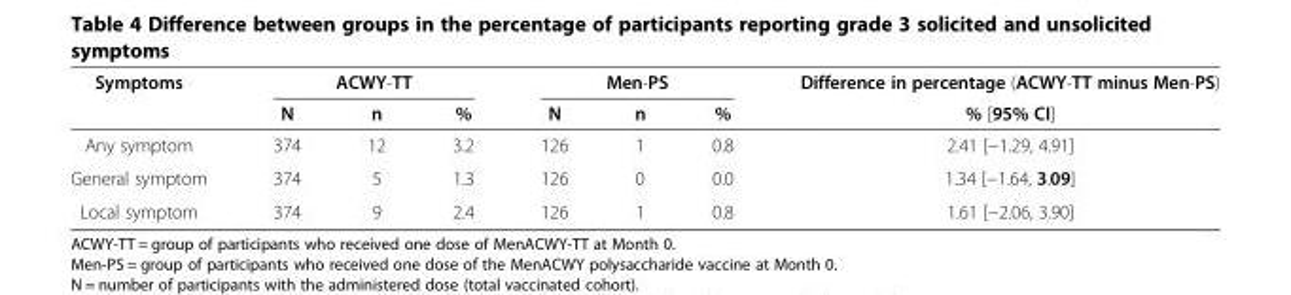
<table><thead><tr><td rowspan="2">Symptoms</td><td colspan="3">ACWY-TT</td><td colspan="3">Men-PS</td><td rowspan="2">Difference in percentage (ACWY-TT minus Men-PS) % [95% CI]</td></tr><tr><td>N</td><td>n</td><td>%</td><td>N</td><td>n</td><td>%</td></tr></thead><tbody><tr><td>Any symptom</td><td>374</td><td>12</td><td>3.2</td><td>126</td><td>1</td><td>0.8</td><td>2.41 [−1.29, 4.91]</td></tr><tr><td>General symptom</td><td>374</td><td>5</td><td>1.3</td><td>126</td><td>0</td><td>0.0</td><td>1.34 [−1.64, 3.09]</td></tr><tr><td>Local symptom</td><td>374</td><td>9</td><td>2.4</td><td>126</td><td>1</td><td>0.8</td><td>1.61 [−2.06, 3.90]</td></tr></tbody></table>